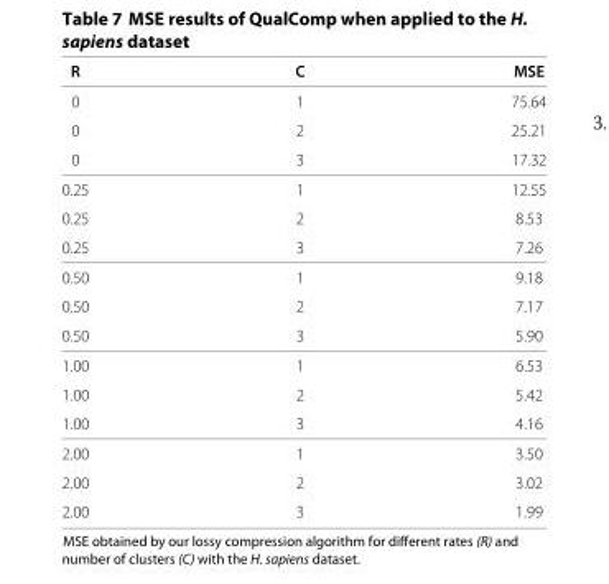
<table><thead><tr><td>R</td><td>C</td><td>MSE</td></tr></thead><tbody><tr><td>0</td><td>1</td><td>75.64</td></tr><tr><td>0</td><td>2</td><td>25.21</td></tr><tr><td>0</td><td>3</td><td>17.32</td></tr><tr><td>0.25</td><td>1</td><td>12.55</td></tr><tr><td>0.25</td><td>2</td><td>8.53</td></tr><tr><td>0.25</td><td>3</td><td>7.26</td></tr><tr><td>0.50</td><td>1</td><td>9.18</td></tr><tr><td>0.50</td><td>2</td><td>7.17</td></tr><tr><td>0.50</td><td>3</td><td>5.90</td></tr><tr><td>1.00</td><td>1</td><td>6.53</td></tr><tr><td>1.00</td><td>2</td><td>5.42</td></tr><tr><td>1.00</td><td>3</td><td>4.16</td></tr><tr><td>2.00</td><td>1</td><td>3.50</td></tr><tr><td>2.00</td><td>2</td><td>3.02</td></tr><tr><td>2.00</td><td>3</td><td>1.99</td></tr></tbody></table>